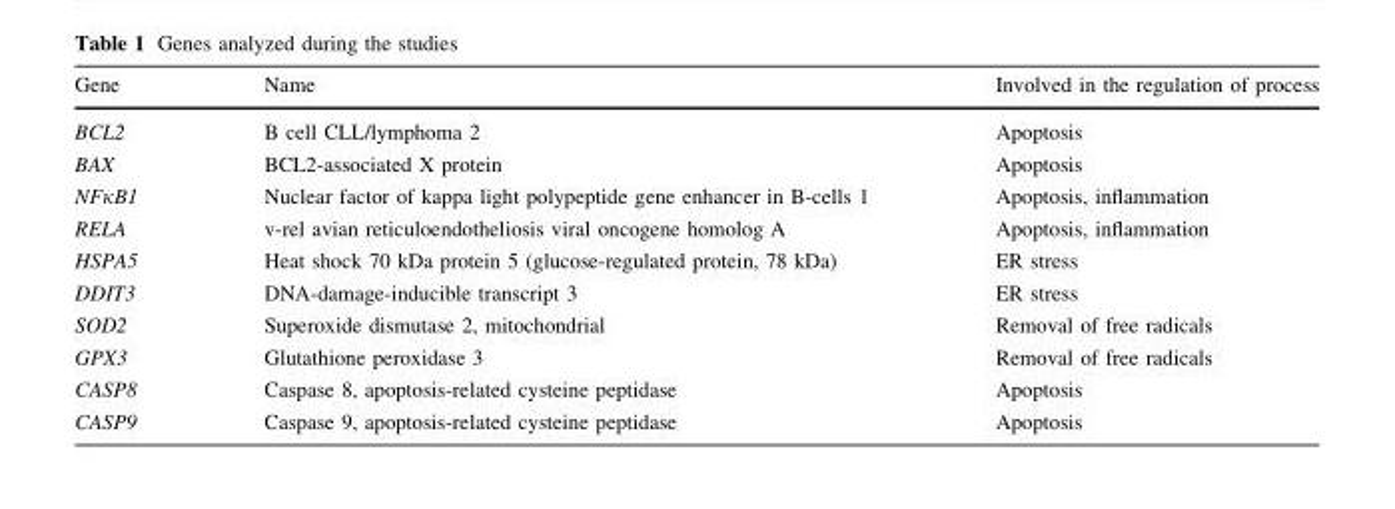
<table><thead><tr><td>Gene</td><td>Name</td><td>Involved in the regulation of process</td></tr></thead><tbody><tr><td>BCL2</td><td>B cell CLL/lymphoma 2</td><td>Apoptosis</td></tr><tr><td>BAX</td><td>BCL2-associated X protein</td><td>Apoptosis</td></tr><tr><td>NFκB1</td><td>Nuclear factor of kappa light polypeptide gene enhancer in B-cells 1</td><td>Apoptosis, inflammation</td></tr><tr><td>RELA</td><td>v-rel avian reticuloendotheliosis viral oncogene homolog A</td><td>Apoptosis, inflammation</td></tr><tr><td>HSPA5</td><td>Heat shock 70 kDa protein 5 (glucose-regulated protein, 78 kDa)</td><td>ER stress</td></tr><tr><td>DDIT3</td><td>DNA-damage-inducible transcript 3</td><td>ER stress</td></tr><tr><td>SOD2</td><td>Superoxide dismutase 2, mitochondrial</td><td>Removal of free radicals</td></tr><tr><td>GPX3</td><td>Glutathione peroxidase 3</td><td>Removal of free radicals</td></tr><tr><td>CASP8</td><td>Caspase 8, apoptosis-related cysteine peptidase</td><td>Apoptosis</td></tr><tr><td>CASP9</td><td>Caspase 9, apoptosis-related cysteine peptidase</td><td>Apoptosis</td></tr></tbody></table>